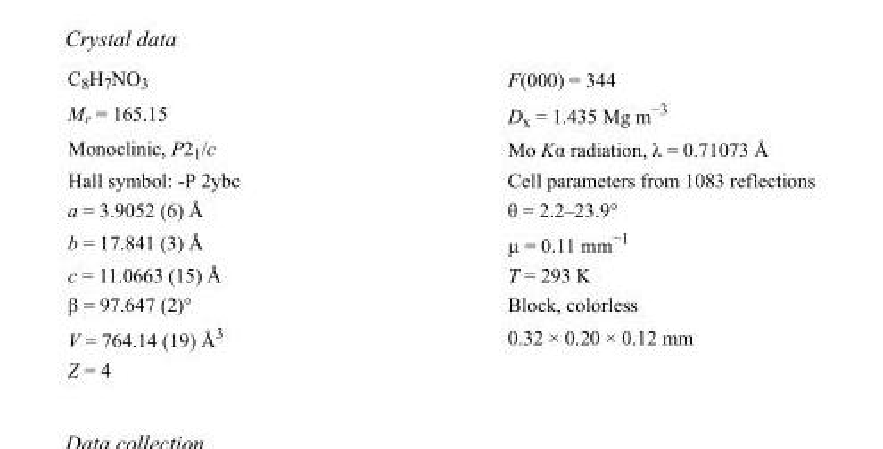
<table><tbody><tr><td>C<sub>8</sub>H<sub>7</sub>NO<sub>3</sub></td><td>F(000) = 344</td></tr><tr><td>M<sub>r</sub> = 165.15</td><td>D<sub>x</sub> = 1.435 Mg m<sup>−3</sup></td></tr><tr><td>Monoclinic, P2<sub>1</sub>/c</td><td>Mo Kα radiation, λ = 0.71073 Å</td></tr><tr><td>Hall symbol: -P 2ybc</td><td>Cell parameters from 1083 reflections</td></tr><tr><td>a = 3.9052 (6) Å</td><td>θ = 2.2–23.9°</td></tr><tr><td>b = 17.841 (3) Å</td><td>µ = 0.11 mm<sup>−1</sup></td></tr><tr><td>c = 11.0663 (15) Å</td><td>T = 293 K</td></tr><tr><td>β = 97.647 (2)°</td><td>Block, colorless</td></tr><tr><td>V = 764.14 (19) Å<sup>3</sup></td><td>0.32 × 0.20 × 0.12 mm</td></tr><tr><td>Z = 4</td><td></td></tr></tbody></table>